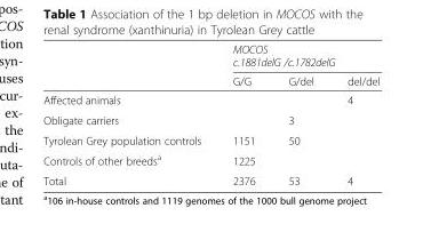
<table><thead><tr><td rowspan="3"></td><td rowspan="2" colspan="3">MOCOS c.1881delG /c.1782delG</td></tr><tr></tr><tr><td>G/G</td><td>G/del</td><td>del/del</td></tr></thead><tbody><tr><td>Affected animals</td><td></td><td></td><td>4</td></tr><tr><td>Obligate carriers</td><td></td><td>3</td><td></td></tr><tr><td>Tyrolean Grey population controls</td><td>1151</td><td>50</td><td></td></tr><tr><td>Controls of other breeds<sup>a</sup></td><td>1225</td><td></td><td></td></tr><tr><td>Total</td><td>2376</td><td>53</td><td>4</td></tr></tbody></table>